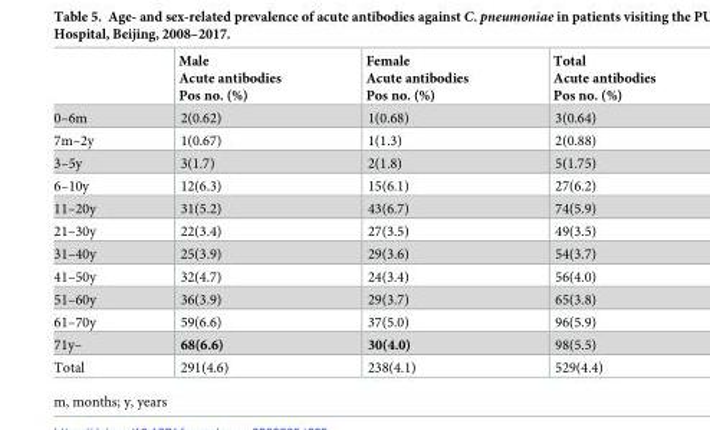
<table><thead><tr><td></td><td>Male Acute antibodies Pos no. (%)</td><td>Female Acute antibodies Pos no. (%)</td><td>Total Acute antibodies Pos no. (%)</td></tr></thead><tbody><tr><td>0–6m</td><td>2(0.62)</td><td>1(0.68)</td><td>3(0.64)</td></tr><tr><td>7m–2y</td><td>1(0.67)</td><td>1(1.3)</td><td>2(0.88)</td></tr><tr><td>3–5y</td><td>3(1.7)</td><td>2(1.8)</td><td>5(1.75)</td></tr><tr><td>6–10y</td><td>12(6.3)</td><td>15(6.1)</td><td>27(6.2)</td></tr><tr><td>11–20y</td><td>31(5.2)</td><td>43(6.7)</td><td>74(5.9)</td></tr><tr><td>21–30y</td><td>22(3.4)</td><td>27(3.5)</td><td>49(3.5)</td></tr><tr><td>31–40y</td><td>25(3.9)</td><td>29(3.6)</td><td>54(3.7)</td></tr><tr><td>41–50y</td><td>32(4.7)</td><td>24(3.4)</td><td>56(4.0)</td></tr><tr><td>51–60y</td><td>36(3.9)</td><td>29(3.7)</td><td>65(3.8)</td></tr><tr><td>61–70y</td><td>59(6.6)</td><td>37(5.0)</td><td>96(5.9)</td></tr><tr><td>71y–</td><td>68(6.6)</td><td>30(4.0)</td><td>98(5.5)</td></tr><tr><td>Total</td><td>291(4.6)</td><td>238(4.1)</td><td>529(4.4)</td></tr></tbody></table>